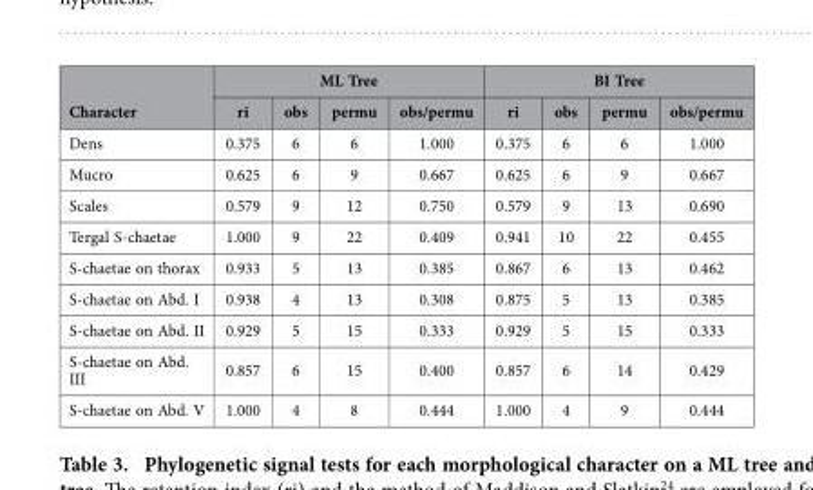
<table><thead><tr><td rowspan="2">Character</td><td colspan="4">ML Tree</td><td colspan="4">BI Tree</td></tr><tr><td>ri</td><td>obs</td><td>permu</td><td>obs/permu</td><td>ri</td><td>obs</td><td>permu</td><td>obs/permu</td></tr></thead><tbody><tr><td>Dens</td><td>0.375</td><td>6</td><td>6</td><td>1.000</td><td>0.375</td><td>6</td><td>6</td><td>1.000</td></tr><tr><td>Mucro</td><td>0.625</td><td>6</td><td>9</td><td>0.667</td><td>0.625</td><td>6</td><td>9</td><td>0.667</td></tr><tr><td>Scales</td><td>0.579</td><td>9</td><td>12</td><td>0.750</td><td>0.579</td><td>9</td><td>13</td><td>0.690</td></tr><tr><td>Tergal S-chaetae</td><td>1.000</td><td>9</td><td>22</td><td>0.409</td><td>0.941</td><td>10</td><td>22</td><td>0.455</td></tr><tr><td>S-chaetae on thorax</td><td>0.933</td><td>5</td><td>13</td><td>0.385</td><td>0.867</td><td>6</td><td>13</td><td>0.462</td></tr><tr><td>S-chaetae on Abd. I</td><td>0.938</td><td>4</td><td>13</td><td>0.308</td><td>0.875</td><td>5</td><td>13</td><td>0.385</td></tr><tr><td>S-chaetae on Abd. II</td><td>0.929</td><td>5</td><td>15</td><td>0.333</td><td>0.929</td><td>5</td><td>15</td><td>0.333</td></tr><tr><td>S-chaetae on Abd. III</td><td>0.857</td><td>6</td><td>15</td><td>0.400</td><td>0.857</td><td>6</td><td>14</td><td>0.429</td></tr><tr><td>S-chaetae on Abd. V</td><td>1.000</td><td>4</td><td>8</td><td>0.444</td><td>1.000</td><td>4</td><td>9</td><td>0.444</td></tr></tbody></table>